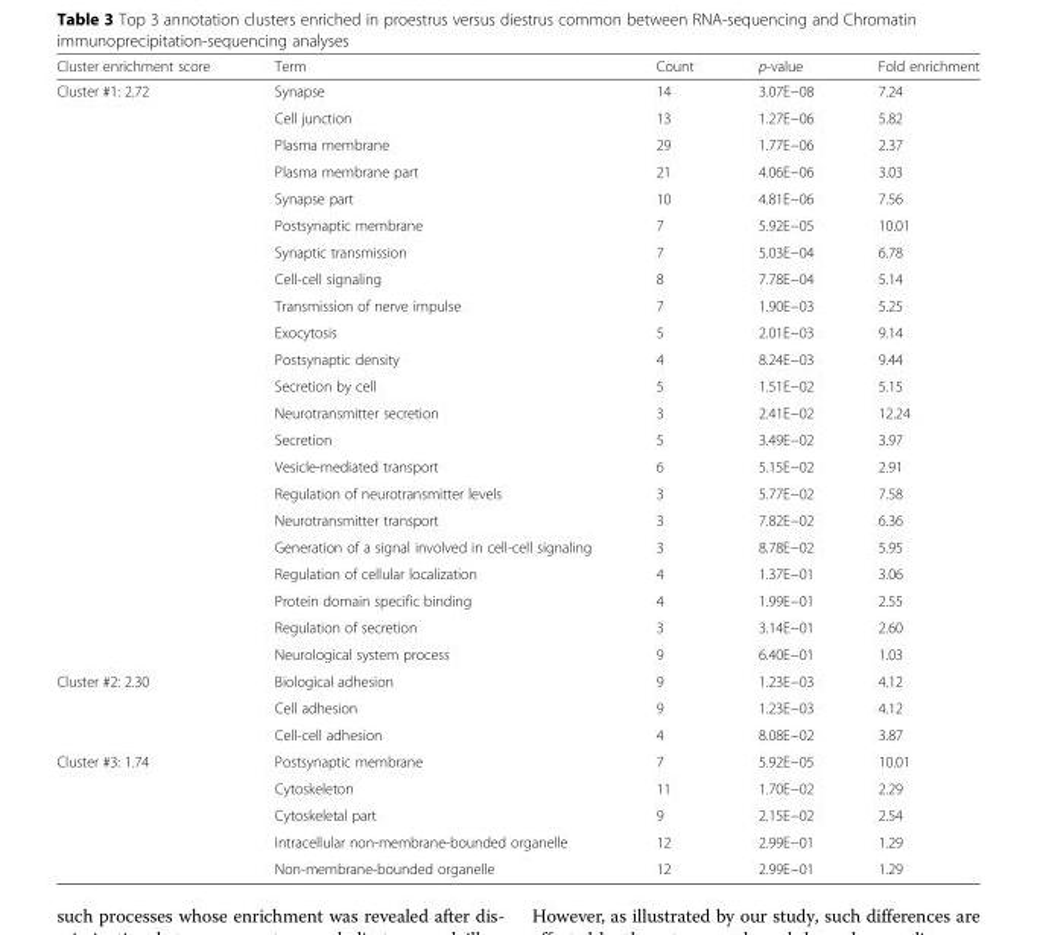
<table><thead><tr><td>Cluster enrichment score</td><td>Term</td><td>Count</td><td>p-value</td><td>Fold enrichment</td></tr></thead><tbody><tr><td rowspan="22">Cluster #1: 2.72</td><td>Synapse</td><td>14</td><td>3.07E−08</td><td>7.24</td></tr><tr><td>Cell junction</td><td>13</td><td>1.27E−06</td><td>5.82</td></tr><tr><td>Plasma membrane</td><td>29</td><td>1.77E−06</td><td>2.37</td></tr><tr><td>Plasma membrane part</td><td>21</td><td>4.06E−06</td><td>3.03</td></tr><tr><td>Synapse part</td><td>10</td><td>4.81E−06</td><td>7.56</td></tr><tr><td>Postsynaptic membrane</td><td>7</td><td>5.92E−05</td><td>10.01</td></tr><tr><td>Synaptic transmission</td><td>7</td><td>5.03E−04</td><td>6.78</td></tr><tr><td>Cell-cell signaling</td><td>8</td><td>7.78E−04</td><td>5.14</td></tr><tr><td>Transmission of nerve impulse</td><td>7</td><td>1.90E−03</td><td>5.25</td></tr><tr><td>Exocytosis</td><td>5</td><td>2.01E−03</td><td>9.14</td></tr><tr><td>Postsynaptic density</td><td>4</td><td>8.24E−03</td><td>9.44</td></tr><tr><td>Secretion by cell</td><td>5</td><td>1.51E−02</td><td>5.15</td></tr><tr><td>Neurotransmitter secretion</td><td>3</td><td>2.41E−02</td><td>12.24</td></tr><tr><td>Secretion</td><td>5</td><td>3.49E−02</td><td>3.97</td></tr><tr><td>Vesicle-mediated transport</td><td>6</td><td>5.15E−02</td><td>2.91</td></tr><tr><td>Regulation of neurotransmitter levels</td><td>3</td><td>5.77E−02</td><td>7.58</td></tr><tr><td>Neurotransmitter transport</td><td>3</td><td>7.82E−02</td><td>6.36</td></tr><tr><td>Generation of a signal involved in cell-cell signaling</td><td>3</td><td>8.78E−02</td><td>5.95</td></tr><tr><td>Regulation of cellular localization</td><td>4</td><td>1.37E−01</td><td>3.06</td></tr><tr><td>Protein domain specific binding</td><td>4</td><td>1.99E−01</td><td>2.55</td></tr><tr><td>Regulation of secretion</td><td>3</td><td>3.14E−01</td><td>2.60</td></tr><tr><td>Neurological system process</td><td>9</td><td>6.40E−01</td><td>1.03</td></tr><tr><td rowspan="3">Cluster #2: 2.30</td><td>Biological adhesion</td><td>9</td><td>1.23E−03</td><td>4.12</td></tr><tr><td>Cell adhesion</td><td>9</td><td>1.23E−03</td><td>4.12</td></tr><tr><td>Cell-cell adhesion</td><td>4</td><td>8.08E−02</td><td>3.87</td></tr><tr><td rowspan="5">Cluster #3: 1.74</td><td>Postsynaptic membrane</td><td>7</td><td>5.92E−05</td><td>10.01</td></tr><tr><td>Cytoskeleton</td><td>11</td><td>1.70E−02</td><td>2.29</td></tr><tr><td>Cytoskeletal part</td><td>9</td><td>2.15E−02</td><td>2.54</td></tr><tr><td>Intracellular non-membrane-bounded organelle</td><td>12</td><td>2.99E−01</td><td>1.29</td></tr><tr><td>Non-membrane-bounded organelle</td><td>12</td><td>2.99E−01</td><td>1.29</td></tr></tbody></table>